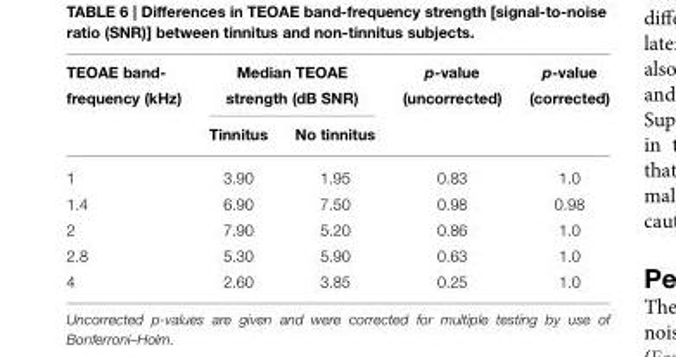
<table><thead><tr><td rowspan="2">TEOAE band- frequency (kHz)</td><td colspan="2">Median TEOAE strength (dB SNR)</td><td rowspan="2">p-value (uncorrected)</td><td rowspan="2">p-value (corrected)</td></tr><tr><td>Tinnitus</td><td>No tinnitus</td></tr></thead><tbody><tr><td>1</td><td>3.90</td><td>1.95</td><td>0.83</td><td>1.0</td></tr><tr><td>1.4</td><td>6.90</td><td>7.50</td><td>0.98</td><td>0.98</td></tr><tr><td>2</td><td>7.90</td><td>5.20</td><td>0.86</td><td>1.0</td></tr><tr><td>2.8</td><td>5.30</td><td>5.90</td><td>0.63</td><td>1.0</td></tr><tr><td>4</td><td>2.60</td><td>3.85</td><td>0.25</td><td>1.0</td></tr></tbody></table>